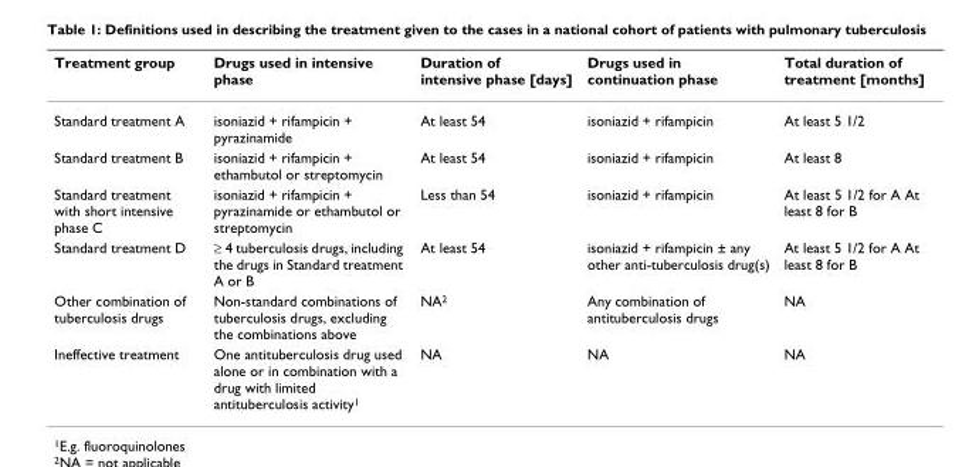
<table><thead><tr><td>Treatment group</td><td>Drugs used in intensive phase</td><td>Duration of intensive phase [days]</td><td>Drugs used in continuation phase</td><td>Total duration of treatment [months]</td></tr></thead><tbody><tr><td>Standard treatment A</td><td>isoniazid + rifampicin + pyrazinamide</td><td>At least 54</td><td>isoniazid + rifampicin</td><td>At least 5 1/2</td></tr><tr><td>Standard treatment B</td><td>isoniazid + rifampicin + ethambutol or streptomycin</td><td>At least 54</td><td>isoniazid + rifampicin</td><td>At least 8</td></tr><tr><td>Standard treatment with short intensive phase C</td><td>isoniazid + rifampicin + pyrazinamide or ethambutol or streptomycin</td><td>Less than 54</td><td>isoniazid + rifampicin</td><td>At least 5 1/2 for A At least 8 for B</td></tr><tr><td>Standard treatment D</td><td>≥ 4 tuberculosis drugs, including the drugs in Standard treatment A or B</td><td>At least 54</td><td>isoniazid + rifampicin ± any other anti-tuberculosis drug(s)</td><td>At least 5 1/2 for A At least 8 for B</td></tr><tr><td>Other combination of tuberculosis drugs</td><td>Non-standard combinations of tuberculosis drugs, excluding the combinations above</td><td>NA<sup>2</sup></td><td>Any combination of antituberculosis drugs</td><td>NA</td></tr><tr><td>Ineffective treatment</td><td>One antituberculosis drug used alone or in combination with a drug with limited antituberculosis activity<sup>1</sup></td><td>NA</td><td>NA</td><td>NA</td></tr></tbody></table>